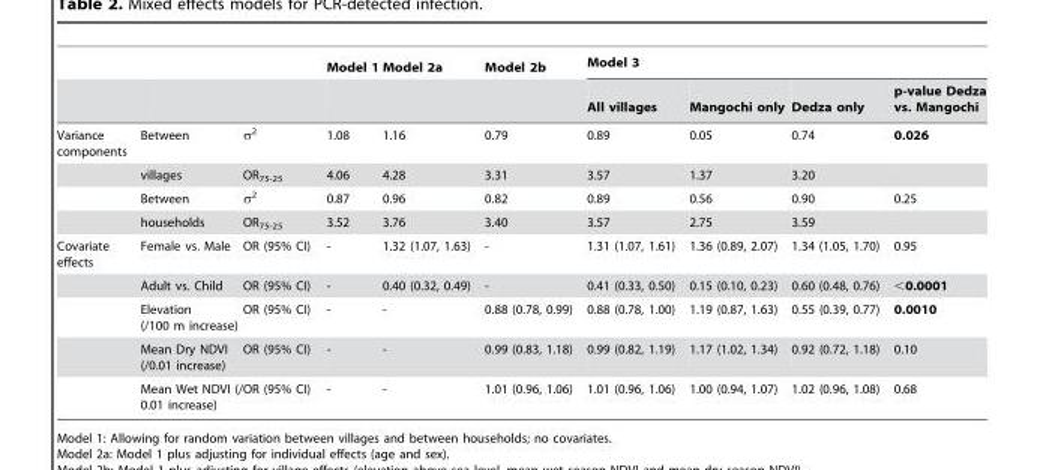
<table><thead><tr><td rowspan="2"></td><td rowspan="2"></td><td rowspan="2"></td><td rowspan="2">Model 1</td><td rowspan="2">Model 2a</td><td rowspan="2">Model 2b</td><td colspan="4">Model 3</td></tr><tr><td>All villages</td><td>Mangochi only</td><td>Dedza only</td><td>p-value Dedza vs. Mangochi</td></tr></thead><tbody><tr><td rowspan="4">Variance components</td><td>Between</td><td>σ<sup>2</sup></td><td>1.08</td><td>1.16</td><td>0.79</td><td>0.89</td><td>0.05</td><td>0.74</td><td>0.026</td></tr><tr><td>villages</td><td>OR<sub>75-25</sub></td><td>4.06</td><td>4.28</td><td>3.31</td><td>3.57</td><td>1.37</td><td>3.20</td><td></td></tr><tr><td>Between</td><td>σ<sup>2</sup></td><td>0.87</td><td>0.96</td><td>0.82</td><td>0.89</td><td>0.56</td><td>0.90</td><td>0.25</td></tr><tr><td>households</td><td>OR<sub>75-25</sub></td><td>3.52</td><td>3.76</td><td>3.40</td><td>3.57</td><td>2.75</td><td>3.59</td><td></td></tr><tr><td rowspan="5">Covariate effects</td><td>Female vs. Male</td><td>OR (95% CI)</td><td>-</td><td>1.32 (1.07, 1.63)</td><td>-</td><td>1.31 (1.07, 1.61)</td><td>1.36 (0.89, 2.07)</td><td>1.34 (1.05, 1.70)</td><td>0.95</td></tr><tr><td>Adult vs. Child</td><td>OR (95% CI)</td><td>-</td><td>0.40 (0.32, 0.49)</td><td>-</td><td>0.41 (0.33, 0.50)</td><td>0.15 (0.10, 0.23)</td><td>0.60 (0.48, 0.76)</td><td>&lt;0.0001</td></tr><tr><td>Elevation (/100 m increase)</td><td>OR (95% CI)</td><td>-</td><td>-</td><td>0.88 (0.78, 0.99)</td><td>0.88 (0.78, 1.00)</td><td>1.19 (0.87, 1.63)</td><td>0.55 (0.39, 0.77)</td><td>0.0010</td></tr><tr><td>Mean Dry NDVI (/0.01 increase)</td><td>OR (95% CI)</td><td>-</td><td>-</td><td>0.99 (0.83, 1.18)</td><td>0.99 (0.82, 1.19)</td><td>1.17 (1.02, 1.34)</td><td>0.92 (0.72, 1.18)</td><td>0.10</td></tr><tr><td>Mean Wet NDVI (/ 0.01 increase)</td><td>OR (95% CI)</td><td>-</td><td>-</td><td>1.01 (0.96, 1.06)</td><td>1.01 (0.96, 1.06)</td><td>1.00 (0.94, 1.07)</td><td>1.02 (0.96, 1.08)</td><td>0.68</td></tr></tbody></table>